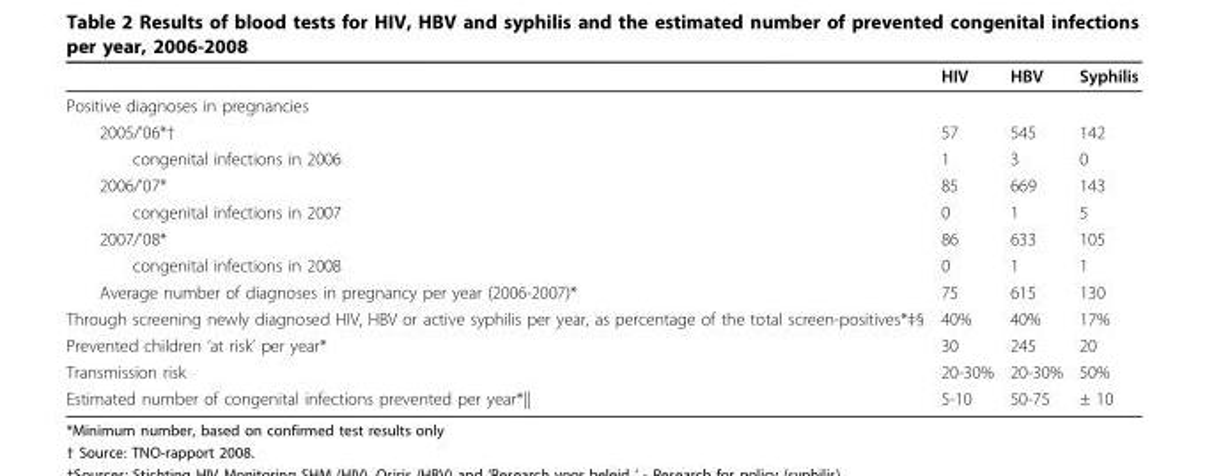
<table><thead><tr><td></td><td>HIV</td><td>HBV</td><td>Syphilis</td></tr></thead><tbody><tr><td colspan="4">Positive diagnoses in pregnancies</td></tr><tr><td>2005/’06*†</td><td>57</td><td>545</td><td>142</td></tr><tr><td>congenital infections in 2006</td><td>1</td><td>3</td><td>0</td></tr><tr><td>2006/’07*</td><td>85</td><td>669</td><td>143</td></tr><tr><td>congenital infections in 2007</td><td>0</td><td>1</td><td>5</td></tr><tr><td>2007/’08*</td><td>86</td><td>633</td><td>105</td></tr><tr><td>congenital infections in 2008</td><td>0</td><td>1</td><td>1</td></tr><tr><td>Average number of diagnoses in pregnancy per year (2006-2007)*</td><td>75</td><td>615</td><td>130</td></tr><tr><td>Through screening newly diagnosed HIV, HBV or active syphilis per year, as percentage of the total screen-positives*‡§</td><td>40%</td><td>40%</td><td>17%</td></tr><tr><td>Prevented children ‘at risk’ per year*</td><td>30</td><td>245</td><td>20</td></tr><tr><td>Transmission risk</td><td>20-30%</td><td>20-30%</td><td>50%</td></tr><tr><td>Estimated number of congenital infections prevented per year*||</td><td>5-10</td><td>50-75</td><td>± 10</td></tr></tbody></table>